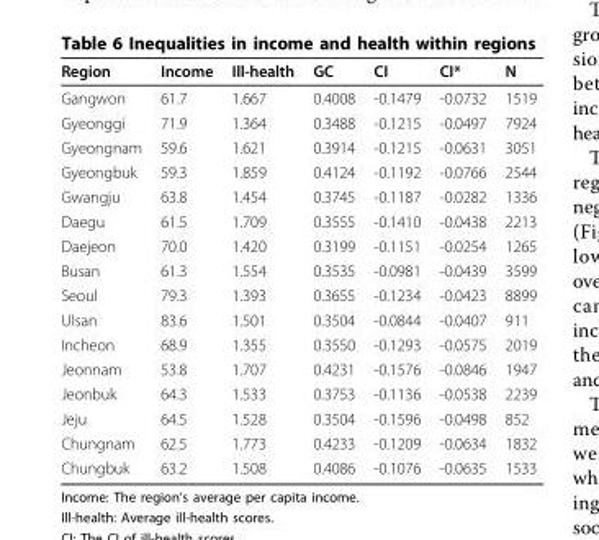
<table><thead><tr><td>Region</td><td>Income</td><td>Ill-health</td><td>GC</td><td>CI</td><td>CI*</td><td>N</td></tr></thead><tbody><tr><td>Gangwon</td><td>61.7</td><td>1.667</td><td>0.4008</td><td>-0.1479</td><td>-0.0732</td><td>1519</td></tr><tr><td>Gyeonggi</td><td>71.9</td><td>1.364</td><td>0.3488</td><td>-0.1215</td><td>-0.0497</td><td>7924</td></tr><tr><td>Gyeongnam</td><td>59.6</td><td>1.621</td><td>0.3914</td><td>-0.1215</td><td>-0.0631</td><td>3051</td></tr><tr><td>Gyeongbuk</td><td>59.3</td><td>1.859</td><td>0.4124</td><td>-0.1192</td><td>-0.0766</td><td>2544</td></tr><tr><td>Gwangju</td><td>63.8</td><td>1.454</td><td>0.3745</td><td>-0.1187</td><td>-0.0282</td><td>1336</td></tr><tr><td>Daegu</td><td>61.5</td><td>1.709</td><td>0.3555</td><td>-0.1410</td><td>-0.0438</td><td>2213</td></tr><tr><td>Daejeon</td><td>70.0</td><td>1.420</td><td>0.3199</td><td>-0.1151</td><td>-0.0254</td><td>1265</td></tr><tr><td>Busan</td><td>61.3</td><td>1.554</td><td>0.3535</td><td>-0.0981</td><td>-0.0439</td><td>3599</td></tr><tr><td>Seoul</td><td>79.3</td><td>1.393</td><td>0.3655</td><td>-0.1234</td><td>-0.0423</td><td>8899</td></tr><tr><td>Ulsan</td><td>83.6</td><td>1.501</td><td>0.3504</td><td>-0.0844</td><td>-0.0407</td><td>911</td></tr><tr><td>Incheon</td><td>68.9</td><td>1.355</td><td>0.3550</td><td>-0.1293</td><td>-0.0575</td><td>2019</td></tr><tr><td>Jeonnam</td><td>53.8</td><td>1.707</td><td>0.4231</td><td>-0.1576</td><td>-0.0846</td><td>1947</td></tr><tr><td>Jeonbuk</td><td>64.3</td><td>1.533</td><td>0.3753</td><td>-0.1136</td><td>-0.0538</td><td>2239</td></tr><tr><td>Jeju</td><td>64.5</td><td>1.528</td><td>0.3504</td><td>-0.1596</td><td>-0.0498</td><td>852</td></tr><tr><td>Chungnam</td><td>62.5</td><td>1.773</td><td>0.4233</td><td>-0.1209</td><td>-0.0634</td><td>1832</td></tr><tr><td>Chungbuk</td><td>63.2</td><td>1.508</td><td>0.4086</td><td>-0.1076</td><td>-0.0635</td><td>1533</td></tr></tbody></table>